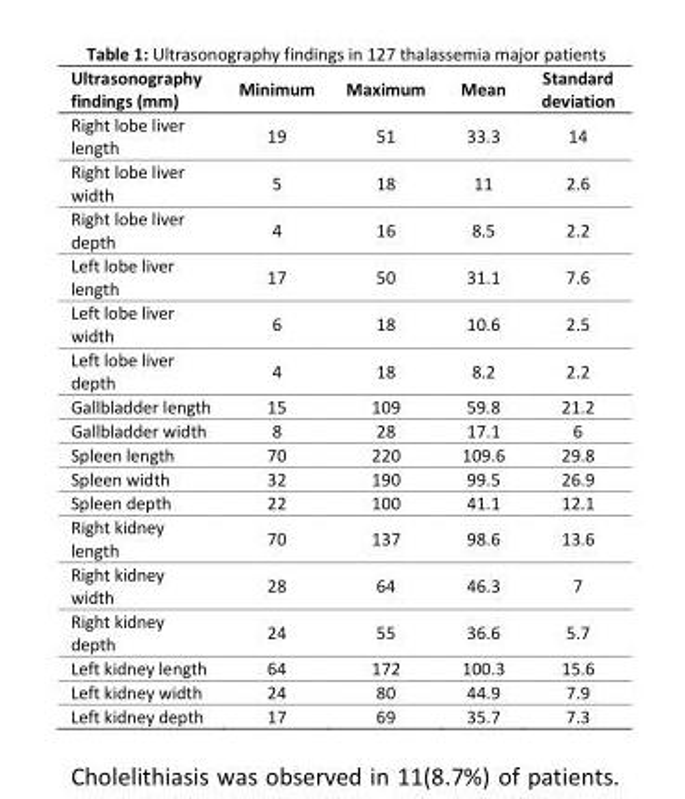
<table><thead><tr><td>Ultrasonography findings (mm)</td><td>Minimum</td><td>Maximum</td><td>Mean</td><td>Standard deviation</td></tr></thead><tbody><tr><td>Right lobe liver length</td><td>19</td><td>51</td><td>33.3</td><td>14</td></tr><tr><td>Right lobe liver width</td><td>5</td><td>18</td><td>11</td><td>2.6</td></tr><tr><td>Right lobe liver depth</td><td>4</td><td>16</td><td>8.5</td><td>2.2</td></tr><tr><td>Left lobe liver length</td><td>17</td><td>50</td><td>31.1</td><td>7.6</td></tr><tr><td>Left lobe liver width</td><td>6</td><td>18</td><td>10.6</td><td>2.5</td></tr><tr><td>Left lobe liver depth</td><td>4</td><td>18</td><td>8.2</td><td>2.2</td></tr><tr><td>Gallbladder length</td><td>15</td><td>109</td><td>59.8</td><td>21.2</td></tr><tr><td>Gallbladder width</td><td>8</td><td>28</td><td>17.1</td><td>6</td></tr><tr><td>Spleen length</td><td>70</td><td>220</td><td>109.6</td><td>29.8</td></tr><tr><td>Spleen width</td><td>32</td><td>190</td><td>99.5</td><td>26.9</td></tr><tr><td>Spleen depth</td><td>22</td><td>100</td><td>41.1</td><td>12.1</td></tr><tr><td>Right kidney length</td><td>70</td><td>137</td><td>98.6</td><td>13.6</td></tr><tr><td>Right kidney width</td><td>28</td><td>64</td><td>46.3</td><td>7</td></tr><tr><td>Right kidney depth</td><td>24</td><td>55</td><td>36.6</td><td>5.7</td></tr><tr><td>Left kidney length</td><td>64</td><td>172</td><td>100.3</td><td>15.6</td></tr><tr><td>Left kidney width</td><td>24</td><td>80</td><td>44.9</td><td>7.9</td></tr><tr><td>Left kidney depth</td><td>17</td><td>69</td><td>35.7</td><td>7.3</td></tr></tbody></table>